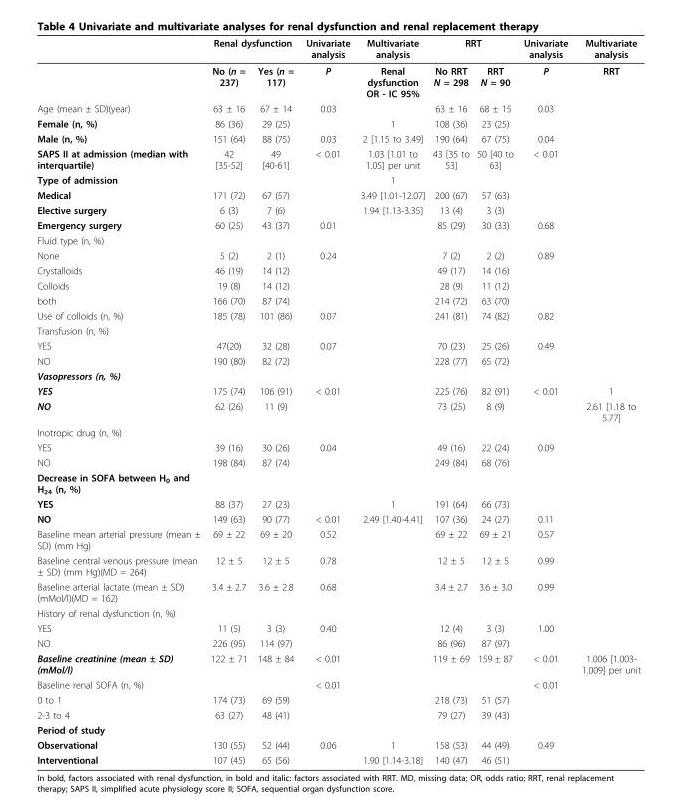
<table><thead><tr><td rowspan="2"></td><td colspan="2">Renal dysfunction</td><td rowspan="2">Univariate analysis P</td><td rowspan="2">Multivariate analysis Renal dysfunction OR - IC 95%</td><td colspan="2">RRT</td><td rowspan="2">Univariate analysis P</td><td rowspan="2">Multivariate analysis RRT</td></tr><tr><td>No (n = 237)</td><td>Yes (n = 117)</td><td>No RRT N = 298</td><td>RRT N = 90</td></tr></thead><tbody><tr><td>Age (mean ± SD)(year)</td><td>63 ± 16</td><td>67 ± 14</td><td>0.03</td><td></td><td>63 ± 16</td><td>68 ± 15</td><td>0.03</td><td></td></tr><tr><td>Female (n, %)</td><td>86 (36)</td><td>29 (25)</td><td></td><td>1</td><td>108 (36)</td><td>23 (25)</td><td></td><td></td></tr><tr><td>Male (n, %)</td><td>151 (64)</td><td>88 (75)</td><td>0.03</td><td>2 [1.15 to 3.49]</td><td>190 (64)</td><td>67 (75)</td><td>0.04</td><td></td></tr><tr><td>SAPS II at admission (median with interquartile)</td><td>42 [35-52]</td><td>49 [40-61]</td><td>&lt; 0.01</td><td>1.03 [1.01 to 1.05] per unit</td><td>43 [35 to 53]</td><td>50 [40 to 63]</td><td>&lt; 0.01</td><td></td></tr><tr><td>Type of admission</td><td></td><td></td><td></td><td>1</td><td></td><td></td><td></td><td></td></tr><tr><td>Medical</td><td>171 (72)</td><td>67 (57)</td><td></td><td>3.49 [1.01-12.07]</td><td>200 (67)</td><td>57 (63)</td><td></td><td></td></tr><tr><td>Elective surgery</td><td>6 (3)</td><td>7 (6)</td><td></td><td>1.94 [1.13-3.35]</td><td>13 (4)</td><td>3 (3)</td><td></td><td></td></tr><tr><td>Emergency surgery</td><td>60 (25)</td><td>43 (37)</td><td>0.01</td><td></td><td>85 (29)</td><td>30 (33)</td><td>0.68</td><td></td></tr><tr><td colspan="9">Fluid type (n, %)</td></tr><tr><td>None</td><td>5 (2)</td><td>2 (1)</td><td>0.24</td><td></td><td>7 (2)</td><td>2 (2)</td><td>0.89</td><td></td></tr><tr><td>Crystalloids</td><td>46 (19)</td><td>14 (12)</td><td></td><td></td><td>49 (17)</td><td>14 (16)</td><td></td><td></td></tr><tr><td>Colloids</td><td>19 (8)</td><td>14 (12)</td><td></td><td></td><td>28 (9)</td><td>11 (12)</td><td></td><td></td></tr><tr><td>both</td><td>166 (70)</td><td>87 (74)</td><td></td><td></td><td>214 (72)</td><td>63 (70)</td><td></td><td></td></tr><tr><td>Use of colloids (n, %)</td><td>185 (78)</td><td>101 (86)</td><td>0.07</td><td></td><td>241 (81)</td><td>74 (82)</td><td>0.82</td><td></td></tr><tr><td colspan="9">Transfusion (n, %)</td></tr><tr><td>YES</td><td>47(20)</td><td>32 (28)</td><td>0.07</td><td></td><td>70 (23)</td><td>25 (26)</td><td>0.49</td><td></td></tr><tr><td>NO</td><td>190 (80)</td><td>82 (72)</td><td></td><td></td><td>228 (77)</td><td>65 (72)</td><td></td><td></td></tr><tr><td colspan="9">Vasopressors (n, %)</td></tr><tr><td>YES</td><td>175 (74)</td><td>106 (91)</td><td>&lt; 0.01</td><td></td><td>225 (76)</td><td>82 (91)</td><td>&lt; 0.01</td><td>1</td></tr><tr><td>NO</td><td>62 (26)</td><td>11 (9)</td><td></td><td></td><td>73 (25)</td><td>8 (9)</td><td></td><td>2.61 [1.18 to 5.77]</td></tr><tr><td colspan="9">Inotropic drug (n, %)</td></tr><tr><td>YES</td><td>39 (16)</td><td>30 (26)</td><td>0.04</td><td></td><td>49 (16)</td><td>22 (24)</td><td>0.09</td><td></td></tr><tr><td>NO</td><td>198 (84)</td><td>87 (74)</td><td></td><td></td><td>249 (84)</td><td>68 (76)</td><td></td><td></td></tr><tr><td colspan="9">Decrease in SOFA between H<sub>0</sub> and H<sub>24</sub> (n, %)</td></tr><tr><td>YES</td><td>88 (37)</td><td>27 (23)</td><td></td><td>1</td><td>191 (64)</td><td>66 (73)</td><td></td><td></td></tr><tr><td>NO</td><td>149 (63)</td><td>90 (77)</td><td>&lt; 0.01</td><td>2.49 [1.40-4.41]</td><td>107 (36)</td><td>24 (27)</td><td>0.11</td><td></td></tr><tr><td>Baseline mean arterial pressure (mean ± SD) (mm Hg)</td><td>69 ± 22</td><td>69 ± 20</td><td>0.52</td><td></td><td>69 ± 22</td><td>69 ± 21</td><td>0.57</td><td></td></tr><tr><td>Baseline central venous pressure (mean ± SD) (mm Hg)(MD = 264)</td><td>12 ± 5</td><td>12 ± 5</td><td>0.78</td><td></td><td>12 ± 5</td><td>12 ± 5</td><td>0.99</td><td></td></tr><tr><td>Baseline arterial lactate (mean ± SD) (mMol/l)(MD = 162)</td><td>3.4 ± 2.7</td><td>3.6 ± 2.8</td><td>0.68</td><td></td><td>3.4 ± 2.7</td><td>3.6 ± 3.0</td><td>0.99</td><td></td></tr><tr><td colspan="9">History of renal dysfunction (n, %)</td></tr><tr><td>YES</td><td>11 (5)</td><td>3 (3)</td><td>0.40</td><td></td><td>12 (4)</td><td>3 (3)</td><td>1.00</td><td></td></tr><tr><td>NO</td><td>226 (95)</td><td>114 (97)</td><td></td><td></td><td>86 (96)</td><td>87 (97)</td><td></td><td></td></tr><tr><td>Baseline creatinine (mean ± SD) (mMol/l)</td><td>122 ± 71</td><td>148 ± 84</td><td>&lt; 0.01</td><td></td><td>119 ± 69</td><td>159 ± 87</td><td>&lt; 0.01</td><td>1.006 [1.003- 1.009] per unit</td></tr><tr><td>Baseline renal SOFA (n, %)</td><td></td><td></td><td>&lt; 0.01</td><td></td><td></td><td></td><td>&lt; 0.01</td><td></td></tr><tr><td>0 to 1</td><td>174 (73)</td><td>69 (59)</td><td></td><td></td><td>218 (73)</td><td>51 (57)</td><td></td><td></td></tr><tr><td>2-3 to 4</td><td>63 (27)</td><td>48 (41)</td><td></td><td></td><td>79 (27)</td><td>39 (43)</td><td></td><td></td></tr><tr><td colspan="9">Period of study</td></tr><tr><td>Observational</td><td>130 (55)</td><td>52 (44)</td><td>0.06</td><td>1</td><td>158 (53)</td><td>44 (49)</td><td>0.49</td><td></td></tr><tr><td>Interventional</td><td>107 (45)</td><td>65 (56)</td><td></td><td>1.90 [1.14-3.18]</td><td>140 (47)</td><td>46 (51)</td><td></td><td></td></tr></tbody></table>